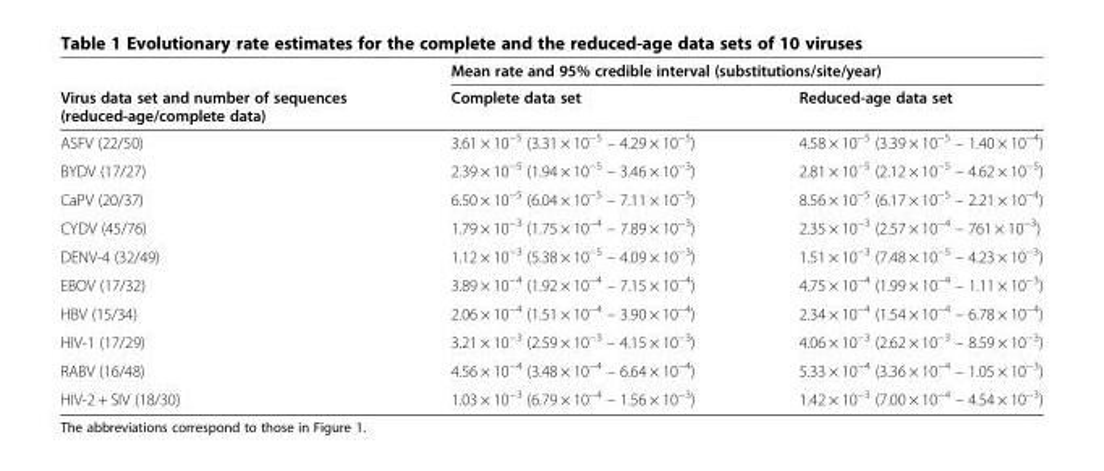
<table><thead><tr><td rowspan="2">Virus data set and number of sequences (reduced-age/complete data)</td><td colspan="2">Mean rate and 95% credible interval (substitutions/site/year)</td></tr><tr><td>Complete data set</td><td>Reduced-age data set</td></tr></thead><tbody><tr><td>ASFV (22/50)</td><td>3.61 × 10<sup>−5</sup> (3.31 × 10<sup>−5</sup> – 4.29 × 10<sup>−5</sup>)</td><td>4.58 × 10<sup>−5</sup> (3.39 × 10<sup>−5</sup> – 1.40 × 10<sup>−4</sup>)</td></tr><tr><td>BYDV (17/27)</td><td>2.39 × 10<sup>−5</sup> (1.94 × 10<sup>−5</sup> – 3.46 × 10<sup>−3</sup>)</td><td>2.81 × 10<sup>−5</sup> (2.12 × 10<sup>−5</sup> – 4.62 × 10<sup>−5</sup>)</td></tr><tr><td>CaPV (20/37)</td><td>6.50 × 10<sup>−5</sup> (6.04 × 10<sup>−5</sup> – 7.11 × 10<sup>−5</sup>)</td><td>8.56 × 10<sup>−5</sup> (6.17 × 10<sup>−5</sup> – 2.21 × 10<sup>−4</sup>)</td></tr><tr><td>CYDV (45/76)</td><td>1.79 × 10<sup>−3</sup> (1.75 × 10<sup>−4</sup> – 7.89 × 10<sup>−3</sup>)</td><td>2.35 × 10<sup>−3</sup> (2.57 × 10<sup>−4</sup> – 761 × 10<sup>−3</sup>)</td></tr><tr><td>DENV-4 (32/49)</td><td>1.12 × 10<sup>−3</sup> (5.38 × 10<sup>−5</sup> – 4.09 × 10<sup>−3</sup>)</td><td>1.51 × 10<sup>−3</sup> (7.48 × 10<sup>−5</sup> – 4.23 × 10<sup>−3</sup>)</td></tr><tr><td>EBOV (17/32)</td><td>3.89 × 10<sup>−4</sup> (1.92 × 10<sup>−4</sup> – 7.15 × 10<sup>−4</sup>)</td><td>4.75 × 10<sup>−4</sup> (1.99 × 10<sup>−4</sup> – 1.11 × 10<sup>−3</sup>)</td></tr><tr><td>HBV (15/34)</td><td>2.06 × 10<sup>−4</sup> (1.51 × 10<sup>−4</sup> – 3.90 × 10<sup>−4</sup>)</td><td>2.34 × 10<sup>−4</sup> (1.54 × 10<sup>−4</sup> – 6.78 × 10<sup>−4</sup>)</td></tr><tr><td>HIV-1 (17/29)</td><td>3.21 × 10<sup>−3</sup> (2.59 × 10<sup>−3</sup> – 4.15 × 10<sup>−3</sup>)</td><td>4.06 × 10<sup>−3</sup> (2.62 × 10<sup>−3</sup> – 8.59 × 10<sup>−3</sup>)</td></tr><tr><td>RABV (16/48)</td><td>4.56 × 10<sup>−4</sup> (3.48 × 10<sup>−4</sup> – 6.64 × 10<sup>−4</sup>)</td><td>5.33 × 10<sup>−4</sup> (3.36 × 10<sup>−4</sup> – 1.05 × 10<sup>−3</sup>)</td></tr><tr><td>HIV-2 + SIV (18/30)</td><td>1.03 × 10<sup>−3</sup> (6.79 × 10<sup>−4</sup> – 1.56 × 10<sup>−3</sup>)</td><td>1.42 × 10<sup>−3</sup> (7.00 × 10<sup>−4</sup> – 4.54 × 10<sup>−3</sup>)</td></tr></tbody></table>